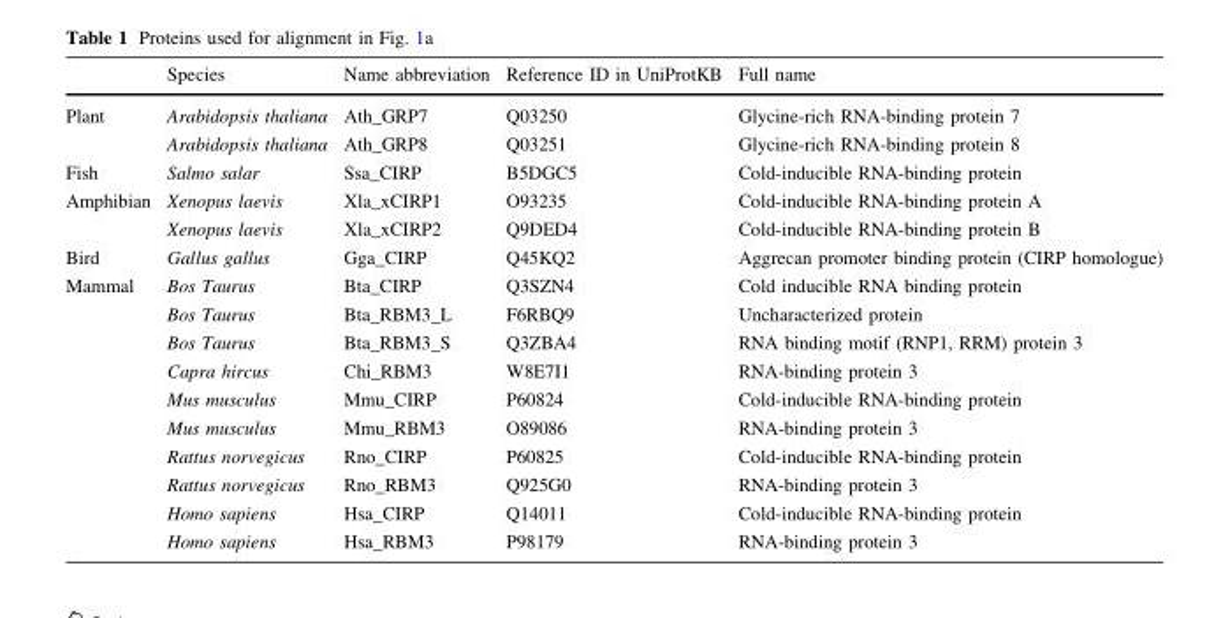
<table><thead><tr><td></td><td>Species</td><td>Name abbreviation</td><td>Reference ID in UniProtKB</td><td>Full name</td></tr></thead><tbody><tr><td rowspan="2">Plant</td><td>Arabidopsis thaliana</td><td>Ath_GRP7</td><td>Q03250</td><td>Glycine-rich RNA-binding protein 7</td></tr><tr><td>Arabidopsis thaliana</td><td>Ath_GRP8</td><td>Q03251</td><td>Glycine-rich RNA-binding protein 8</td></tr><tr><td>Fish</td><td>Salmo salar</td><td>Ssa_CIRP</td><td>B5DGC5</td><td>Cold-inducible RNA-binding protein</td></tr><tr><td rowspan="2">Amphibian</td><td>Xenopus laevis</td><td>Xla_xCIRP1</td><td>O93235</td><td>Cold-inducible RNA-binding protein A</td></tr><tr><td>Xenopus laevis</td><td>Xla_xCIRP2</td><td>Q9DED4</td><td>Cold-inducible RNA-binding protein B</td></tr><tr><td>Bird</td><td>Gallus gallus</td><td>Gga_CIRP</td><td>Q45KQ2</td><td>Aggrecan promoter binding protein (CIRP homologue)</td></tr><tr><td rowspan="10">Mammal</td><td>Bos Taurus</td><td>Bta_CIRP</td><td>Q3SZN4</td><td>Cold inducible RNA binding protein</td></tr><tr><td>Bos Taurus</td><td>Bta_RBM3_L</td><td>F6RBQ9</td><td>Uncharacterized protein</td></tr><tr><td>Bos Taurus</td><td>Bta_RBM3_S</td><td>Q3ZBA4</td><td>RNA binding motif (RNP1, RRM) protein 3</td></tr><tr><td>Capra hircus</td><td>Chi_RBM3</td><td>W8E7I1</td><td>RNA-binding protein 3</td></tr><tr><td>Mus musculus</td><td>Mmu_CIRP</td><td>P60824</td><td>Cold-inducible RNA-binding protein</td></tr><tr><td>Mus musculus</td><td>Mmu_RBM3</td><td>O89086</td><td>RNA-binding protein 3</td></tr><tr><td>Rattus norvegicus</td><td>Rno_CIRP</td><td>P60825</td><td>Cold-inducible RNA-binding protein</td></tr><tr><td>Rattus norvegicus</td><td>Rno_RBM3</td><td>Q925G0</td><td>RNA-binding protein 3</td></tr><tr><td>Homo sapiens</td><td>Hsa_CIRP</td><td>Q14011</td><td>Cold-inducible RNA-binding protein</td></tr><tr><td>Homo sapiens</td><td>Hsa_RBM3</td><td>P98179</td><td>RNA-binding protein 3</td></tr></tbody></table>